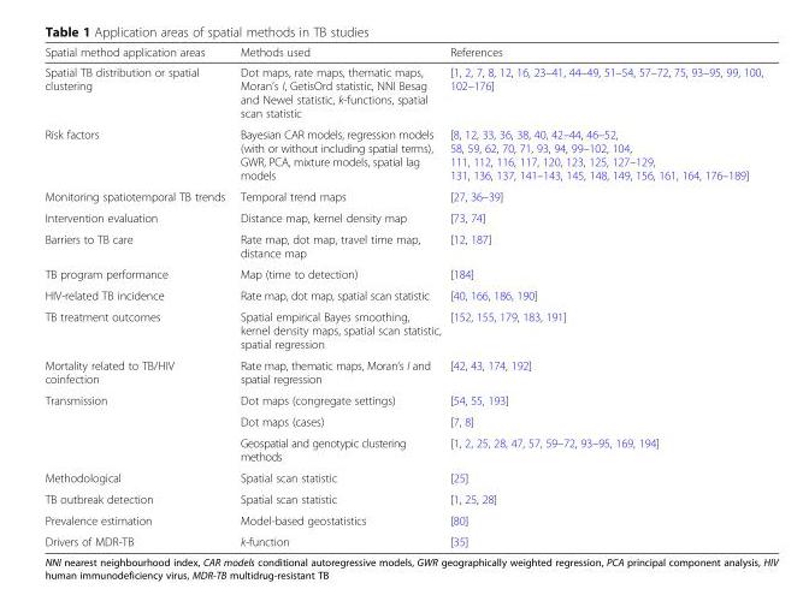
<table><thead><tr><td>Spatial method application areas</td><td>Methods used</td><td>References</td></tr></thead><tbody><tr><td>Spatial TB distribution or spatial clustering</td><td>Dot maps, rate maps, thematic maps, Moran’s I, GetisOrd statistic, NNI Besag and Newel statistic, k-functions, spatial scan statistic</td><td>[1, 2, 7, 8, 12, 16, 23–41, 44–49, 51–54, 57–72, 75, 93–95, 99, 100, 102–176]</td></tr><tr><td>Risk factors</td><td>Bayesian CAR models, regression models (with or without including spatial terms), GWR, PCA, mixture models, spatial lag models</td><td>[8, 12, 33, 36, 38, 40, 42–44, 46–52, 58, 59, 62, 70, 71, 93, 94, 99–102, 104, 111, 112, 116, 117, 120, 123, 125, 127–129, 131, 136, 137, 141–143, 145, 148, 149, 156, 161, 164, 176–189]</td></tr><tr><td>Monitoring spatiotemporal TB trends</td><td>Temporal trend maps</td><td>[27, 36–39]</td></tr><tr><td>Intervention evaluation</td><td>Distance map, kernel density map</td><td>[73, 74]</td></tr><tr><td>Barriers to TB care</td><td>Rate map, dot map, travel time map, distance map</td><td>[12, 187]</td></tr><tr><td>TB program performance</td><td>Map (time to detection)</td><td>[184]</td></tr><tr><td>HIV-related TB incidence</td><td>Rate map, dot map, spatial scan statistic</td><td>[40, 166, 186, 190]</td></tr><tr><td>TB treatment outcomes</td><td>Spatial empirical Bayes smoothing, kernel density maps, spatial scan statistic, spatial regression</td><td>[152, 155, 179, 183, 191]</td></tr><tr><td>Mortality related to TB/HIV coinfection</td><td>Rate map, thematic maps, Moran’s I and spatial regression</td><td>[42, 43, 174, 192]</td></tr><tr><td rowspan="3">Transmission</td><td>Dot maps (congregate settings)</td><td>[54, 55, 193]</td></tr><tr><td>Dot maps (cases)</td><td>[7, 8]</td></tr><tr><td>Geospatial and genotypic clustering methods</td><td>[1, 2, 25, 28, 47, 57, 59–72, 93–95, 169, 194]</td></tr><tr><td>Methodological</td><td>Spatial scan statistic</td><td>[25]</td></tr><tr><td>TB outbreak detection</td><td>Spatial scan statistic</td><td>[1, 25, 28]</td></tr><tr><td>Prevalence estimation</td><td>Model-based geostatistics</td><td>[80]</td></tr><tr><td>Drivers of MDR-TB</td><td>k-function</td><td>[35]</td></tr></tbody></table>